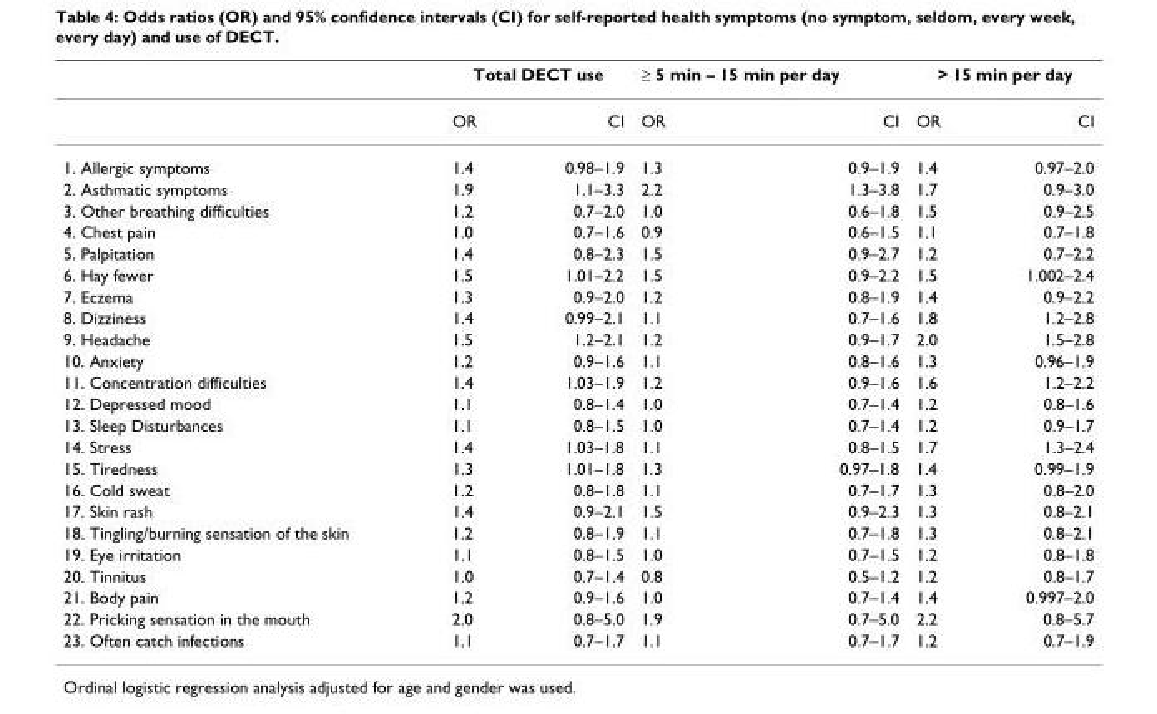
<table><thead><tr><td rowspan="2"></td><td colspan="2">Total DECT use</td><td colspan="2">≥ 5 min – 15 min per day</td><td colspan="2">&gt; 15 min per day</td></tr><tr><td>OR</td><td>CI</td><td>OR</td><td>CI</td><td>OR</td><td>CI</td></tr></thead><tbody><tr><td>1. Allergic symptoms</td><td>1.4</td><td>0.98–1.9</td><td>1.3</td><td>0.9–1.9</td><td>1.4</td><td>0.97–2.0</td></tr><tr><td>2. Asthmatic symptoms</td><td>1.9</td><td>1.1–3.3</td><td>2.2</td><td>1.3–3.8</td><td>1.7</td><td>0.9–3.0</td></tr><tr><td>3. Other breathing difficulties</td><td>1.2</td><td>0.7–2.0</td><td>1.0</td><td>0.6–1.8</td><td>1.5</td><td>0.9–2.5</td></tr><tr><td>4. Chest pain</td><td>1.0</td><td>0.7–1.6</td><td>0.9</td><td>0.6–1.5</td><td>1.1</td><td>0.7–1.8</td></tr><tr><td>5. Palpitation</td><td>1.4</td><td>0.8–2.3</td><td>1.5</td><td>0.9–2.7</td><td>1.2</td><td>0.7–2.2</td></tr><tr><td>6. Hay fewer</td><td>1.5</td><td>1.01–2.2</td><td>1.5</td><td>0.9–2.2</td><td>1.5</td><td>1.002–2.4</td></tr><tr><td>7. Eczema</td><td>1.3</td><td>0.9–2.0</td><td>1.2</td><td>0.8–1.9</td><td>1.4</td><td>0.9–2.2</td></tr><tr><td>8. Dizziness</td><td>1.4</td><td>0.99–2.1</td><td>1.1</td><td>0.7–1.6</td><td>1.8</td><td>1.2–2.8</td></tr><tr><td>9. Headache</td><td>1.5</td><td>1.2–2.1</td><td>1.2</td><td>0.9–1.7</td><td>2.0</td><td>1.5–2.8</td></tr><tr><td>10. Anxiety</td><td>1.2</td><td>0.9–1.6</td><td>1.1</td><td>0.8–1.6</td><td>1.3</td><td>0.96–1.9</td></tr><tr><td>11. Concentration difficulties</td><td>1.4</td><td>1.03–1.9</td><td>1.2</td><td>0.9–1.6</td><td>1.6</td><td>1.2–2.2</td></tr><tr><td>12. Depressed mood</td><td>1.1</td><td>0.8–1.4</td><td>1.0</td><td>0.7–1.4</td><td>1.2</td><td>0.8–1.6</td></tr><tr><td>13. Sleep Disturbances</td><td>1.1</td><td>0.8–1.5</td><td>1.0</td><td>0.7–1.4</td><td>1.2</td><td>0.9–1.7</td></tr><tr><td>14. Stress</td><td>1.4</td><td>1.03–1.8</td><td>1.1</td><td>0.8–1.5</td><td>1.7</td><td>1.3–2.4</td></tr><tr><td>15. Tiredness</td><td>1.3</td><td>1.01–1.8</td><td>1.3</td><td>0.97–1.8</td><td>1.4</td><td>0.99–1.9</td></tr><tr><td>16. Cold sweat</td><td>1.2</td><td>0.8–1.8</td><td>1.1</td><td>0.7–1.7</td><td>1.3</td><td>0.8–2.0</td></tr><tr><td>17. Skin rash</td><td>1.4</td><td>0.9–2.1</td><td>1.5</td><td>0.9–2.3</td><td>1.3</td><td>0.8–2.1</td></tr><tr><td>18. Tingling/burning sensation of the skin</td><td>1.2</td><td>0.8–1.9</td><td>1.1</td><td>0.7–1.8</td><td>1.3</td><td>0.8–2.1</td></tr><tr><td>19. Eye irritation</td><td>1.1</td><td>0.8–1.5</td><td>1.0</td><td>0.7–1.5</td><td>1.2</td><td>0.8–1.8</td></tr><tr><td>20. Tinnitus</td><td>1.0</td><td>0.7–1.4</td><td>0.8</td><td>0.5–1.2</td><td>1.2</td><td>0.8–1.7</td></tr><tr><td>21. Body pain</td><td>1.2</td><td>0.9–1.6</td><td>1.0</td><td>0.7–1.4</td><td>1.4</td><td>0.997–2.0</td></tr><tr><td>22. Pricking sensation in the mouth</td><td>2.0</td><td>0.8–5.0</td><td>1.9</td><td>0.7–5.0</td><td>2.2</td><td>0.8–5.7</td></tr><tr><td>23. Often catch infections</td><td>1.1</td><td>0.7–1.7</td><td>1.1</td><td>0.7–1.7</td><td>1.2</td><td>0.7–1.9</td></tr></tbody></table>